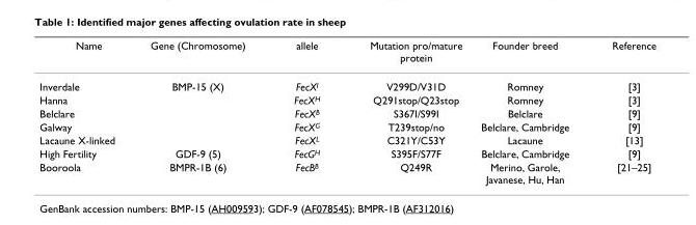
<table><thead><tr><td>Name</td><td>Gene (Chromosome)</td><td>allele</td><td>Mutation pro/mature protein</td><td>Founder breed</td><td>Reference</td></tr></thead><tbody><tr><td>Inverdale</td><td>BMP-15 (X)</td><td>FecX<sup>I</sup></td><td>V299D/V31D</td><td>Romney</td><td>[3]</td></tr><tr><td>Hanna</td><td></td><td>FecX<sup>H</sup></td><td>Q291stop/Q23stop</td><td>Romney</td><td>[3]</td></tr><tr><td>Belclare</td><td></td><td>FecX<sup>B</sup></td><td>S367I/S99I</td><td>Belclare</td><td>[9]</td></tr><tr><td>Galway</td><td></td><td>FecX<sup>G</sup></td><td>T239stop/no</td><td>Belclare, Cambridge</td><td>[9]</td></tr><tr><td>Lacaune X-linked</td><td></td><td>FecX<sup>L</sup></td><td>C321Y/C53Y</td><td>Lacaune</td><td>[13]</td></tr><tr><td>High Fertility</td><td>GDF-9 (5)</td><td>FecG<sup>H</sup></td><td>S395F/S77F</td><td>Belclare, Cambridge</td><td>[9]</td></tr><tr><td>Booroola</td><td>BMPR-1B (6)</td><td>FecB<sup>B</sup></td><td>Q249R</td><td>Merino, Garole, Javanese, Hu, Han</td><td>[21–25]</td></tr></tbody></table>